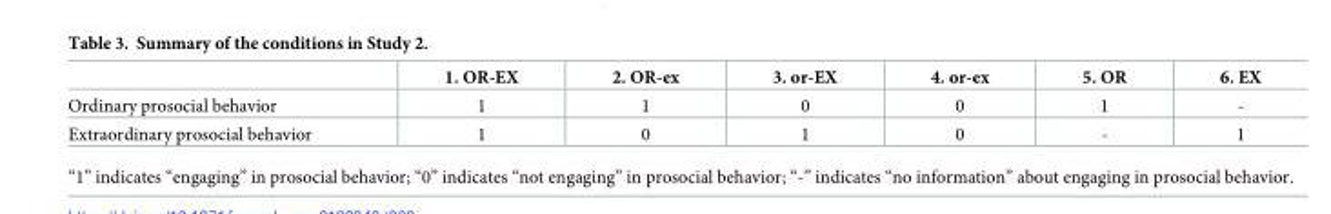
<table><thead><tr><td></td><td>1. OR-EX</td><td>2. OR-ex</td><td>3. or-EX</td><td>4. or-ex</td><td>5. OR</td><td>6. EX</td></tr></thead><tbody><tr><td>Ordinary prosocial behavior</td><td>1</td><td>1</td><td>0</td><td>0</td><td>1</td><td>-</td></tr><tr><td>Extraordinary prosocial behavior</td><td>1</td><td>0</td><td>1</td><td>0</td><td>-</td><td>1</td></tr></tbody></table>